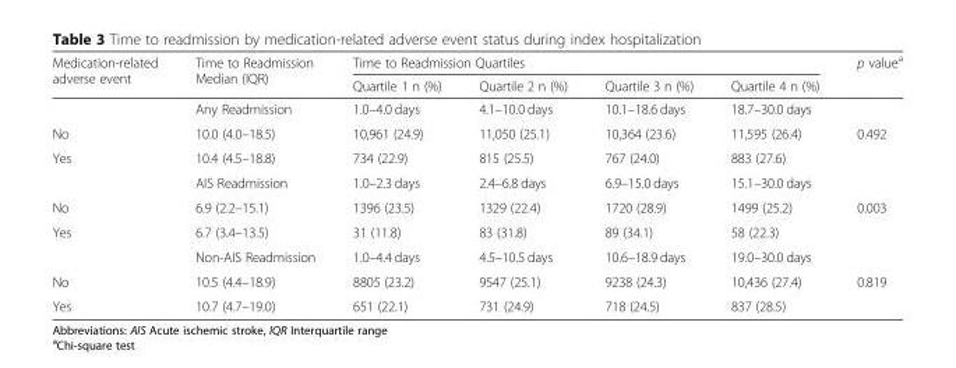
<table><thead><tr><td rowspan="2">Medication-related adverse event</td><td rowspan="2">Time to Readmission Median (IQR)</td><td colspan="4">Time to Readmission Quartiles</td><td rowspan="2">p value<sup>a</sup></td></tr><tr><td>Quartile 1 n (%)</td><td>Quartile 2 n (%)</td><td>Quartile 3 n (%)</td><td>Quartile 4 n (%)</td></tr></thead><tbody><tr><td></td><td>Any Readmission</td><td>1.0–4.0 days</td><td>4.1–10.0 days</td><td>10.1–18.6 days</td><td>18.7–30.0 days</td><td></td></tr><tr><td>No</td><td>10.0 (4.0–18.5)</td><td>10,961 (24.9)</td><td>11,050 (25.1)</td><td>10,364 (23.6)</td><td>11,595 (26.4)</td><td rowspan="2">0.492</td></tr><tr><td rowspan="2">Yes</td><td>10.4 (4.5–18.8)</td><td>734 (22.9)</td><td>815 (25.5)</td><td>767 (24.0)</td><td>883 (27.6)</td></tr><tr><td>AIS Readmission</td><td>1.0–2.3 days</td><td>2.4–6.8 days</td><td>6.9–15.0 days</td><td>15.1–30.0 days</td><td></td></tr><tr><td>No</td><td>6.9 (2.2–15.1)</td><td>1396 (23.5)</td><td>1329 (22.4)</td><td>1720 (28.9)</td><td>1499 (25.2)</td><td rowspan="2">0.003</td></tr><tr><td rowspan="2">Yes</td><td>6.7 (3.4–13.5)</td><td>31 (11.8)</td><td>83 (31.8)</td><td>89 (34.1)</td><td>58 (22.3)</td></tr><tr><td>Non-AIS Readmission</td><td>1.0–4.4 days</td><td>4.5–10.5 days</td><td>10.6–18.9 days</td><td>19.0–30.0 days</td><td></td></tr><tr><td>No</td><td>10.5 (4.4–18.9)</td><td>8805 (23.2)</td><td>9547 (25.1)</td><td>9238 (24.3)</td><td>10,436 (27.4)</td><td rowspan="2">0.819</td></tr><tr><td>Yes</td><td>10.7 (4.7–19.0)</td><td>651 (22.1)</td><td>731 (24.9)</td><td>718 (24.5)</td><td>837 (28.5)</td></tr></tbody></table>